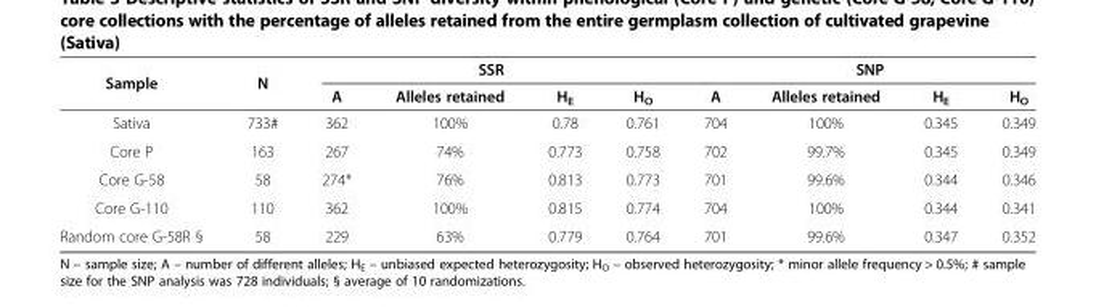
<table><thead><tr><td rowspan="2">Sample</td><td rowspan="2">N</td><td colspan="4">SSR</td><td colspan="4">SNP</td></tr><tr><td>A</td><td>Alleles retained</td><td>H<sub>E</sub></td><td>H<sub>O</sub></td><td>A</td><td>Alleles retained</td><td>H<sub>E</sub></td><td>H<sub>O</sub></td></tr></thead><tbody><tr><td>Sativa</td><td>733#</td><td>362</td><td>100%</td><td>0.78</td><td>0.761</td><td>704</td><td>100%</td><td>0.345</td><td>0.349</td></tr><tr><td>Core P</td><td>163</td><td>267</td><td>74%</td><td>0.773</td><td>0.758</td><td>702</td><td>99.7%</td><td>0.345</td><td>0.349</td></tr><tr><td>Core G-58</td><td>58</td><td>274*</td><td>76%</td><td>0.813</td><td>0.773</td><td>701</td><td>99.6%</td><td>0.344</td><td>0.346</td></tr><tr><td>Core G-110</td><td>110</td><td>362</td><td>100%</td><td>0.815</td><td>0.774</td><td>704</td><td>100%</td><td>0.344</td><td>0.341</td></tr><tr><td>Random core G-58R §</td><td>58</td><td>229</td><td>63%</td><td>0.779</td><td>0.764</td><td>701</td><td>99.6%</td><td>0.347</td><td>0.352</td></tr></tbody></table>